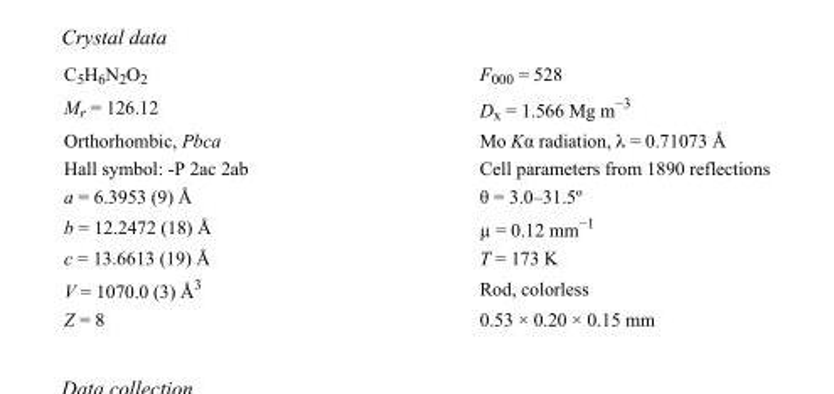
<table><tbody><tr><td>C<sub>5</sub>H<sub>6</sub>N<sub>2</sub>O<sub>2</sub></td><td>F000 = 528</td></tr><tr><td>M<sub>r</sub> = 126.12</td><td>D<sub>x</sub> = 1.566 Mg m<sup>−3</sup></td></tr><tr><td>Orthorhombic, Pbca</td><td>Mo Kα radiation, λ = 0.71073 Å</td></tr><tr><td>Hall symbol: -P 2ac 2ab</td><td>Cell parameters from 1890 reflections</td></tr><tr><td>a = 6.3953 (9) Å</td><td>θ = 3.0–31.5º</td></tr><tr><td>b = 12.2472 (18) Å</td><td>µ = 0.12 mm<sup>−1</sup></td></tr><tr><td>c = 13.6613 (19) Å</td><td>T = 173 K</td></tr><tr><td>V = 1070.0 (3) Å<sup>3</sup></td><td>Rod, colorless</td></tr><tr><td>Z = 8</td><td>0.53 × 0.20 × 0.15 mm</td></tr></tbody></table>